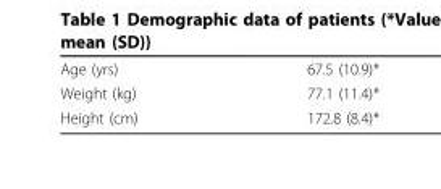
<table><tbody><tr><td>Age (yrs)</td><td>67.5 (10.9)*</td></tr><tr><td>Weight (kg)</td><td>77.1 (11.4)*</td></tr><tr><td>Height (cm)</td><td>172.8 (8.4)*</td></tr></tbody></table>